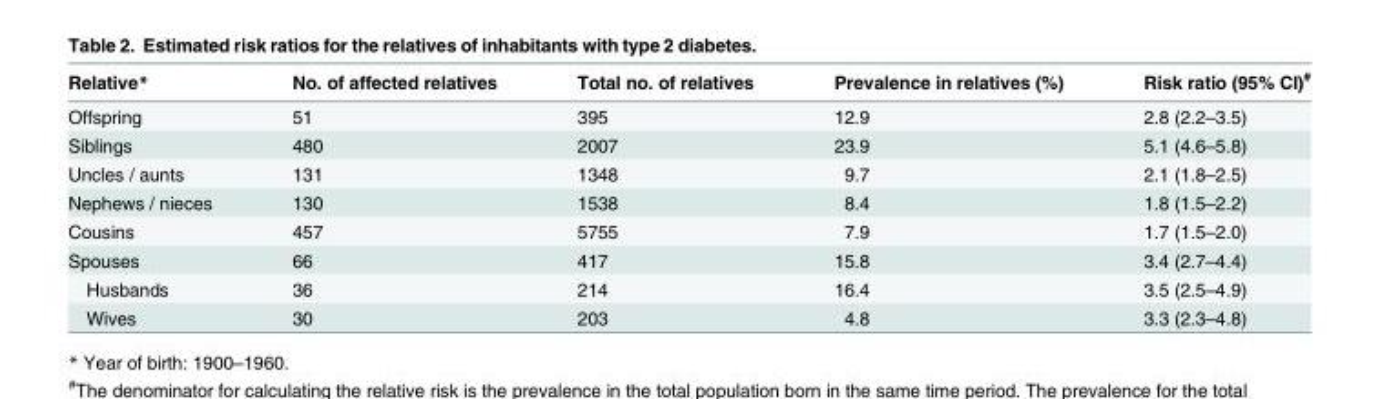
<table><thead><tr><td>Relative*</td><td>No. of affected relatives</td><td>Total no. of relatives</td><td>Prevalence in relatives (%)</td><td>Risk ratio (95% CI)<sup>#</sup></td></tr></thead><tbody><tr><td>Offspring</td><td>51</td><td>395</td><td>12.9</td><td>2.8 (2.2–3.5)</td></tr><tr><td>Siblings</td><td>480</td><td>2007</td><td>23.9</td><td>5.1 (4.6–5.8)</td></tr><tr><td>Uncles / aunts</td><td>131</td><td>1348</td><td>9.7</td><td>2.1 (1.8–2.5)</td></tr><tr><td>Nephews / nieces</td><td>130</td><td>1538</td><td>8.4</td><td>1.8 (1.5–2.2)</td></tr><tr><td>Cousins</td><td>457</td><td>5755</td><td>7.9</td><td>1.7 (1.5–2.0)</td></tr><tr><td>Spouses</td><td>66</td><td>417</td><td>15.8</td><td>3.4 (2.7–4.4)</td></tr><tr><td>Husbands</td><td>36</td><td>214</td><td>16.4</td><td>3.5 (2.5–4.9)</td></tr><tr><td>Wives</td><td>30</td><td>203</td><td>4.8</td><td>3.3 (2.3–4.8)</td></tr></tbody></table>